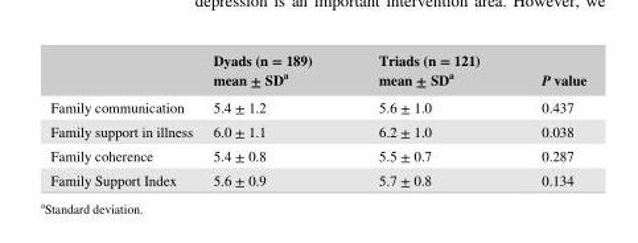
<table><thead><tr><td></td><td>Dyads (n = 189) mean ± SD<sup>a</sup></td><td>Triads (n = 121) mean ± SD<sup>a</sup></td><td>P value</td></tr></thead><tbody><tr><td>Family communication</td><td>5.4 ± 1.2</td><td>5.6 ± 1.0</td><td>0.437</td></tr><tr><td>Family support in illness</td><td>6.0 ± 1.1</td><td>6.2 ± 1.0</td><td>0.038</td></tr><tr><td>Family coherence</td><td>5.4 ± 0.8</td><td>5.5 ± 0.7</td><td>0.287</td></tr><tr><td>Family Support Index</td><td>5.6 ± 0.9</td><td>5.7 ± 0.8</td><td>0.134</td></tr></tbody></table>